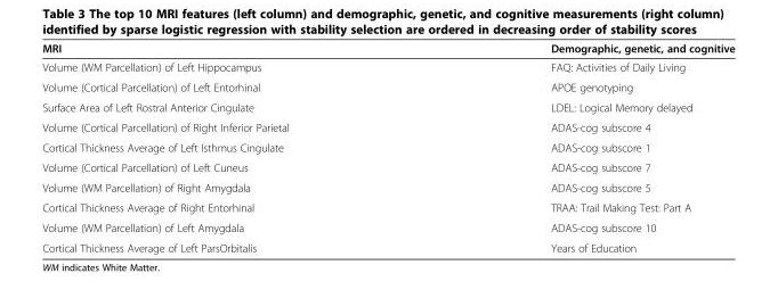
<table><thead><tr><td>MRI</td><td>Demographic, genetic, and cognitive</td></tr></thead><tbody><tr><td>Volume (WM Parcellation) of Left Hippocampus</td><td>FAQ: Activities of Daily Living</td></tr><tr><td>Volume (Cortical Parcellation) of Left Entorhinal</td><td>APOE genotyping</td></tr><tr><td>Surface Area of Left Rostral Anterior Cingulate</td><td>LDEL: Logical Memory delayed</td></tr><tr><td>Volume (Cortical Parcellation) of Right Inferior Parietal</td><td>ADAS-cog subscore 4</td></tr><tr><td>Cortical Thickness Average of Left Isthmus Cingulate</td><td>ADAS-cog subscore 1</td></tr><tr><td>Volume (Cortical Parcellation) of Left Cuneus</td><td>ADAS-cog subscore 7</td></tr><tr><td>Volume (WM Parcellation) of Right Amygdala</td><td>ADAS-cog subscore 5</td></tr><tr><td>Cortical Thickness Average of Right Entorhinal</td><td>TRAA: Trail Making Test: Part A</td></tr><tr><td>Volume (WM Parcellation) of Left Amygdala</td><td>ADAS-cog subscore 10</td></tr><tr><td>Cortical Thickness Average of Left ParsOrbitalis</td><td>Years of Education</td></tr></tbody></table>